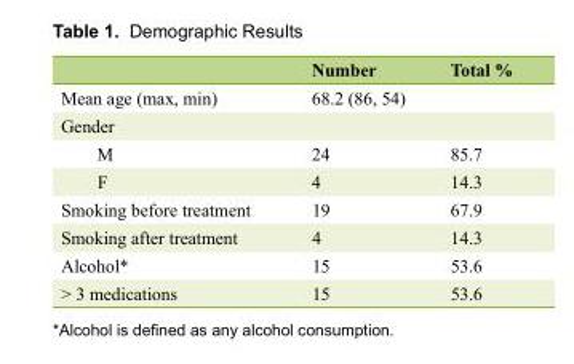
<table><thead><tr><td></td><td>Number</td><td>Total %</td></tr></thead><tbody><tr><td>Mean age (max, min)</td><td>68.2 (86, 54)</td><td></td></tr><tr><td colspan="3">Gender</td></tr><tr><td>M</td><td>24</td><td>85.7</td></tr><tr><td>F</td><td>4</td><td>14.3</td></tr><tr><td>Smoking before treatment</td><td>19</td><td>67.9</td></tr><tr><td>Smoking after treatment</td><td>4</td><td>14.3</td></tr><tr><td>Alcohol*</td><td>15</td><td>53.6</td></tr><tr><td>&gt; 3 medications</td><td>15</td><td>53.6</td></tr></tbody></table>